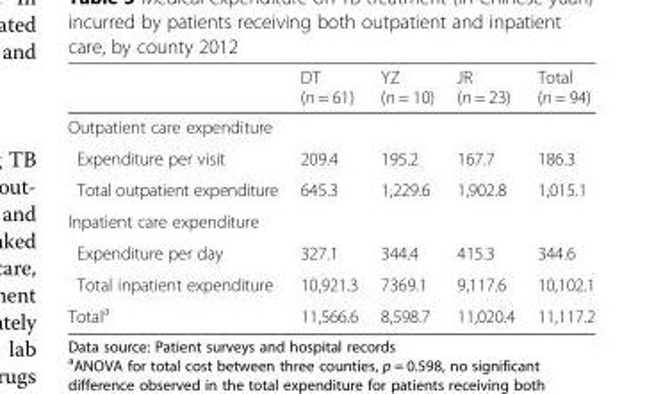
<table><thead><tr><td></td><td>DT (n = 61)</td><td>YZ (n = 10)</td><td>JR (n = 23)</td><td>Total (n = 94)</td></tr></thead><tbody><tr><td colspan="5">Outpatient care expenditure</td></tr><tr><td>Expenditure per visit</td><td>209.4</td><td>195.2</td><td>167.7</td><td>186.3</td></tr><tr><td>Total outpatient expenditure</td><td>645.3</td><td>1,229.6</td><td>1,902.8</td><td>1,015.1</td></tr><tr><td colspan="5">Inpatient care expenditure</td></tr><tr><td>Expenditure per day</td><td>327.1</td><td>344.4</td><td>415.3</td><td>344.6</td></tr><tr><td>Total inpatient expenditure</td><td>10,921.3</td><td>7369.1</td><td>9,117.6</td><td>10,102.1</td></tr><tr><td>Total<sup>a</sup></td><td>11,566.6</td><td>8,598.7</td><td>11,020.4</td><td>11,117.2</td></tr></tbody></table>